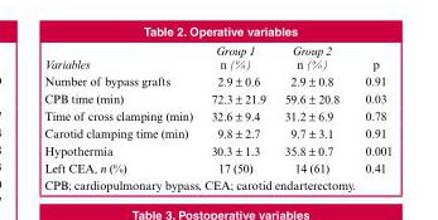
<table><thead><tr><td>Variables</td><td>Group 1 n (%)</td><td>Group 2 n (%)</td><td>p</td></tr></thead><tbody><tr><td>Number of bypass grafts</td><td>2.9 ± 0.6</td><td>2.9 ± 0.8</td><td>0.91</td></tr><tr><td>CPB time (min)</td><td>72.3 ± 21.9</td><td>59.6 ± 20.8</td><td>0.03</td></tr><tr><td>Time of cross clamping (min)</td><td>32.6 ± 9.4</td><td>31.2 ± 6.9</td><td>0.78</td></tr><tr><td>Carotid clamping time (min)</td><td>9.8 ± 2.7</td><td>9.7 ± 3.1</td><td>0.91</td></tr><tr><td>Hypothermia</td><td>30.3 ± 1.3</td><td>35.8 ± 0.7</td><td>0.001</td></tr><tr><td>Left CEA, n (%)</td><td>17 (50)</td><td>14 (61)</td><td>0.41</td></tr></tbody></table>